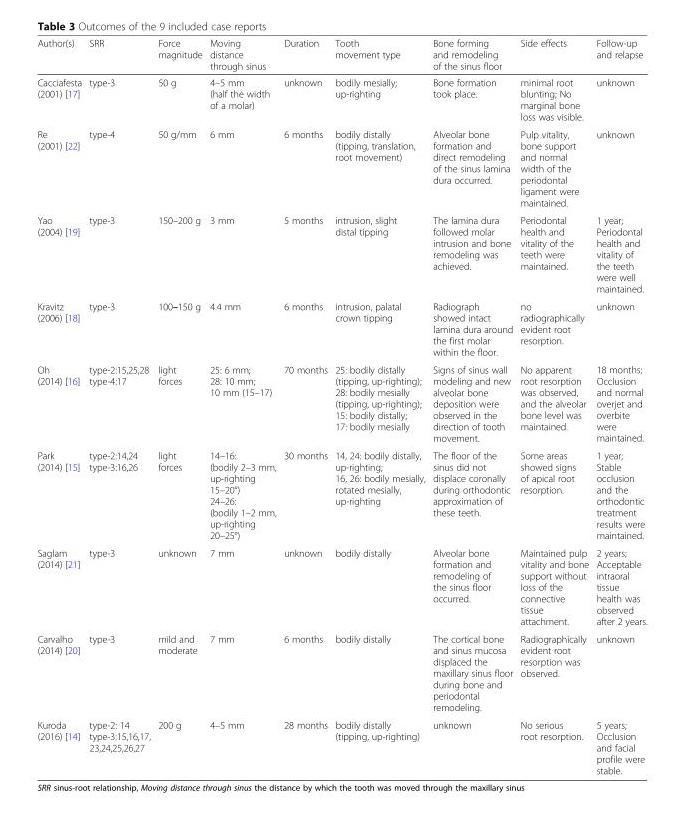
<table><thead><tr><td>Author(s)</td><td>SRR</td><td>Force magnitude</td><td>Moving distance through sinus</td><td>Duration</td><td>Tooth movement type</td><td>Bone forming and remodeling of the sinus floor</td><td>Side effects</td><td>Follow-up and relapse</td></tr></thead><tbody><tr><td>Cacciafesta (2001) [17]</td><td>type-3</td><td>50 g</td><td>4–5 mm (half the width of a molar)</td><td>unknown</td><td>bodily mesially; up-righting</td><td>Bone formation took place.</td><td>minimal root blunting; No marginal bone loss was visible.</td><td>unknown</td></tr><tr><td>Re (2001) [22]</td><td>type-4</td><td>50 g/mm</td><td>6 mm</td><td>6 months</td><td>bodily distally (tipping, translation, root movement)</td><td>Alveolar bone formation and direct remodeling of the sinus lamina dura occurred.</td><td>Pulp vitality, bone support and normal width of the periodontal ligament were maintained.</td><td>unknown</td></tr><tr><td>Yao (2004) [19]</td><td>type-3</td><td>150–200 g</td><td>3 mm</td><td>5 months</td><td>intrusion, slight distal tipping</td><td>The lamina dura followed molar intrusion and bone remodeling was achieved.</td><td>Periodontal health and vitality of the teeth were maintained.</td><td>1 year; Periodontal health and vitality of the teeth were well maintained.</td></tr><tr><td>Kravitz (2006) [18]</td><td>type-3</td><td>100–150 g</td><td>4.4 mm</td><td>6 months</td><td>intrusion, palatal crown tipping</td><td>Radiograph showed intact lamina dura around the first molar within the floor.</td><td>no radiographically evident root resorption.</td><td>unknown</td></tr><tr><td>Oh (2014) [16]</td><td>type-2:15,25,28 type-4:17</td><td>light forces</td><td>25: 6 mm; 28: 10 mm; 10 mm (15–17)</td><td>70 months</td><td>25: bodily distally (tipping, up-righting); 28: bodily mesially (tipping, up-righting); 15: bodily distally; 17: bodily mesially</td><td>Signs of sinus wall modeling and new alveolar bone deposition were observed in the direction of tooth movement.</td><td>No apparent root resorption was observed, and the alveolar bone level was maintained.</td><td>18 months; Occlusion and normal overjet and overbite were maintained.</td></tr><tr><td>Park (2014) [15]</td><td>type-2:14,24 type-3:16,26</td><td>light forces</td><td>14–16: (bodily 2–3 mm, up-righting 15–20°) 24–26: (bodily 1–2 mm, up-righting 20–25°)</td><td>30 months</td><td>14, 24: bodily distally, up-righting; 16, 26: bodily mesially, rotated mesially, up-righting</td><td>The floor of the sinus did not displace coronally during orthodontic approximation of these teeth.</td><td>Some areas showed signs of apical root resorption.</td><td>1 year; Stable occlusion and the orthodontic treatment results were maintained.</td></tr><tr><td>Saglam (2014) [21]</td><td>type-3</td><td>unknown</td><td>7 mm</td><td>unknown</td><td>bodily distally</td><td>Alveolar bone formation and remodeling of the sinus floor occurred.</td><td>Maintained pulp vitality and bone support without loss of the connective tissue attachment.</td><td>2 years; Acceptable intraoral tissue health was observed after 2 years.</td></tr><tr><td>Carvalho (2014) [20]</td><td>type-3</td><td>mild and moderate</td><td>7 mm</td><td>6 months</td><td>bodily distally</td><td>The cortical bone and sinus mucosa displaced the maxillary sinus floor during bone and periodontal remodeling.</td><td>Radiographically evident root resorption was observed.</td><td>unknown</td></tr><tr><td>Kuroda (2016) [14]</td><td>type-2: 14 type-3:15,16,17, 23,24,25,26,27</td><td>200 g</td><td>4–5 mm</td><td>28 months</td><td>bodily distally (tipping, up-righting)</td><td>unknown</td><td>No serious root resorption.</td><td>5 years; Occlusion and facial profile were stable.</td></tr></tbody></table>